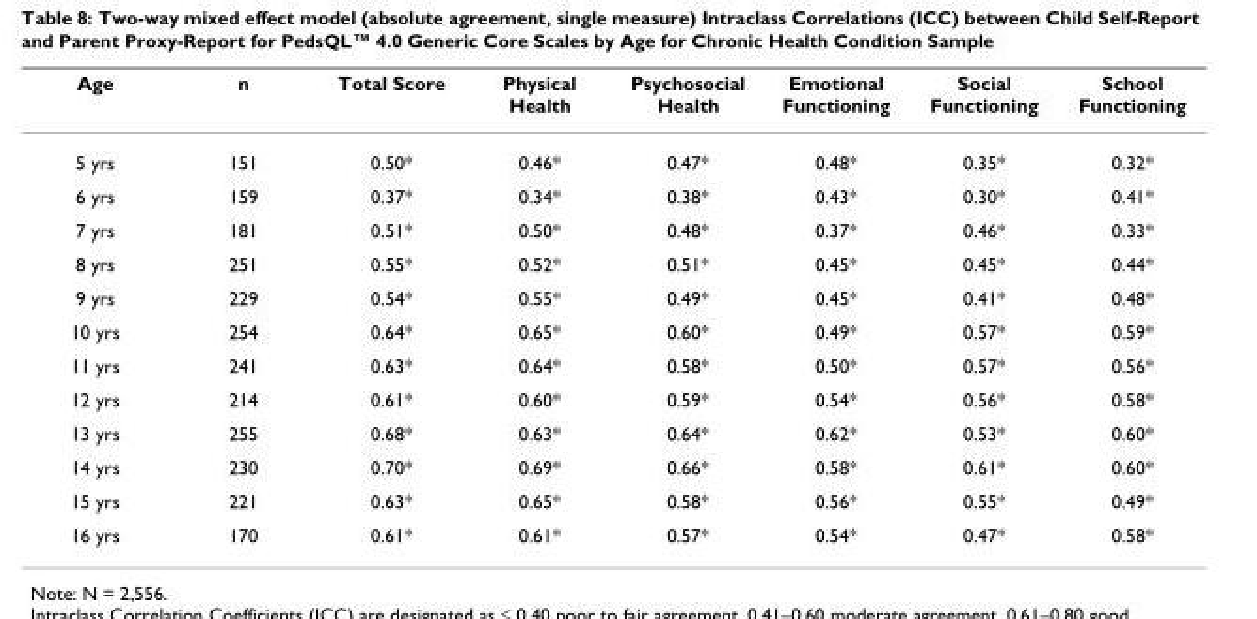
<table><thead><tr><td>Age</td><td>n</td><td>Total Score</td><td>Physical Health</td><td>Psychosocial Health</td><td>Emotional Functioning</td><td>Social Functioning</td><td>School Functioning</td></tr></thead><tbody><tr><td>5 yrs</td><td>151</td><td>0.50*</td><td>0.46*</td><td>0.47*</td><td>0.48*</td><td>0.35*</td><td>0.32*</td></tr><tr><td>6 yrs</td><td>159</td><td>0.37*</td><td>0.34*</td><td>0.38*</td><td>0.43*</td><td>0.30*</td><td>0.41*</td></tr><tr><td>7 yrs</td><td>181</td><td>0.51*</td><td>0.50*</td><td>0.48*</td><td>0.37*</td><td>0.46*</td><td>0.33*</td></tr><tr><td>8 yrs</td><td>251</td><td>0.55*</td><td>0.52*</td><td>0.51*</td><td>0.45*</td><td>0.45*</td><td>0.44*</td></tr><tr><td>9 yrs</td><td>229</td><td>0.54*</td><td>0.55*</td><td>0.49*</td><td>0.45*</td><td>0.41*</td><td>0.48*</td></tr><tr><td>10 yrs</td><td>254</td><td>0.64*</td><td>0.65*</td><td>0.60*</td><td>0.49*</td><td>0.57*</td><td>0.59*</td></tr><tr><td>11 yrs</td><td>241</td><td>0.63*</td><td>0.64*</td><td>0.58*</td><td>0.50*</td><td>0.57*</td><td>0.56*</td></tr><tr><td>12 yrs</td><td>214</td><td>0.61*</td><td>0.60*</td><td>0.59*</td><td>0.54*</td><td>0.56*</td><td>0.58*</td></tr><tr><td>13 yrs</td><td>255</td><td>0.68*</td><td>0.63*</td><td>0.64*</td><td>0.62*</td><td>0.53*</td><td>0.60*</td></tr><tr><td>14 yrs</td><td>230</td><td>0.70*</td><td>0.69*</td><td>0.66*</td><td>0.58*</td><td>0.61*</td><td>0.60*</td></tr><tr><td>15 yrs</td><td>221</td><td>0.63*</td><td>0.65*</td><td>0.58*</td><td>0.56*</td><td>0.55*</td><td>0.49*</td></tr><tr><td>16 yrs</td><td>170</td><td>0.61*</td><td>0.61*</td><td>0.57*</td><td>0.54*</td><td>0.47*</td><td>0.58*</td></tr></tbody></table>